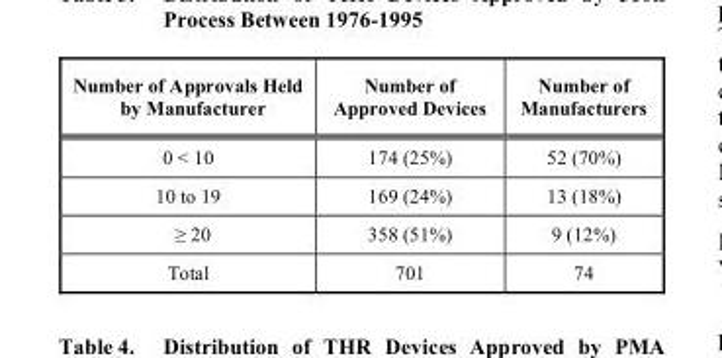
<table><thead><tr><td>Number of Approvals Held by Manufacturer</td><td>Number of Approved Devices</td><td>Number of Manufacturers</td></tr></thead><tbody><tr><td>0 &lt; 10</td><td>174 (25%)</td><td>52 (70%)</td></tr><tr><td>10 to 19</td><td>169 (24%)</td><td>13 (18%)</td></tr><tr><td>≥ 20</td><td>358 (51%)</td><td>9 (12%)</td></tr><tr><td>Total</td><td>701</td><td>74</td></tr></tbody></table>